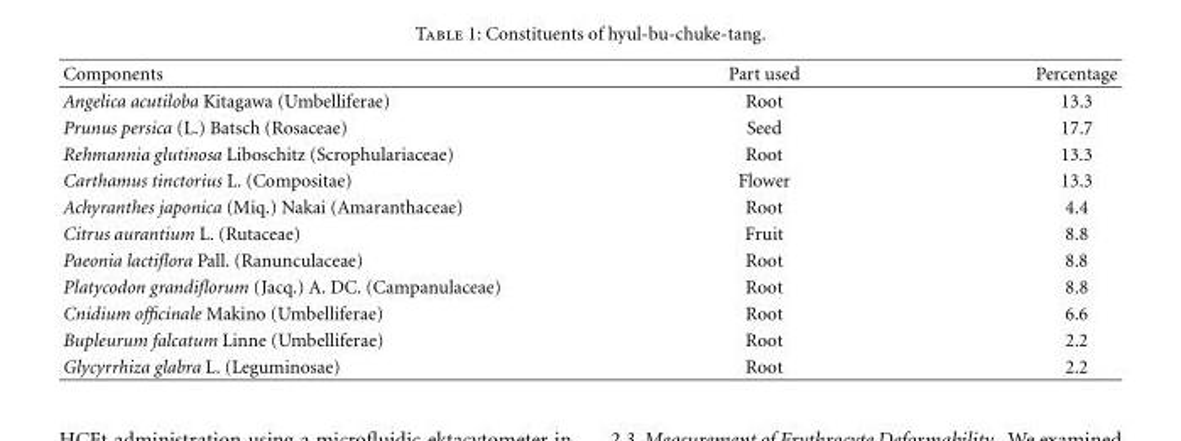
<table><thead><tr><td>Components</td><td>Part used</td><td>Percentage</td></tr></thead><tbody><tr><td>Angelica acutiloba Kitagawa (Umbelliferae)</td><td>Root</td><td>13.3</td></tr><tr><td>Prunus persica (L.) Batsch (Rosaceae)</td><td>Seed</td><td>17.7</td></tr><tr><td>Rehmannia glutinosa Liboschitz (Scrophulariaceae)</td><td>Root</td><td>13.3</td></tr><tr><td>Carthamus tinctorius L. (Compositae)</td><td>Flower</td><td>13.3</td></tr><tr><td>Achyranthes japonica (Miq.) Nakai (Amaranthaceae)</td><td>Root</td><td>4.4</td></tr><tr><td>Citrus aurantium L. (Rutaceae)</td><td>Fruit</td><td>8.8</td></tr><tr><td>Paeonia lactiflora Pall. (Ranunculaceae)</td><td>Root</td><td>8.8</td></tr><tr><td>Platycodon grandiflorum (Jacq.) A. DC. (Campanulaceae)</td><td>Root</td><td>8.8</td></tr><tr><td>Cnidium officinale Makino (Umbelliferae)</td><td>Root</td><td>6.6</td></tr><tr><td>Bupleurum falcatum Linne (Umbelliferae)</td><td>Root</td><td>2.2</td></tr><tr><td>Glycyrrhiza glabra L. (Leguminosae)</td><td>Root</td><td>2.2</td></tr></tbody></table>